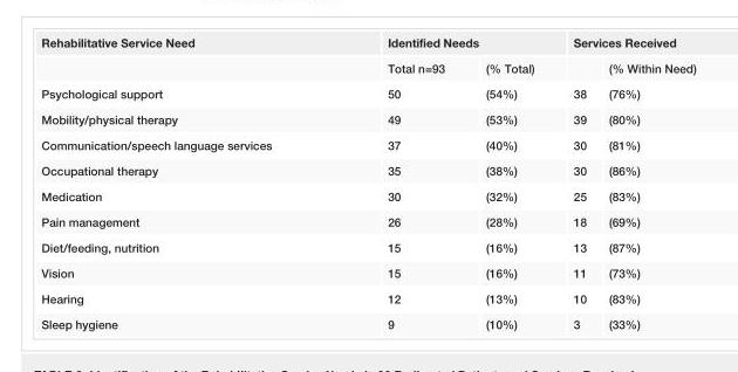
<table><tbody><tr><td rowspan="2">Rehabilitative Service Need</td><td colspan="2">Identified Needs</td><td colspan="2">Services Received</td></tr><tr><td>Total n=93</td><td>(% Total)</td><td></td><td>(% Within Need)</td></tr><tr><td>Psychological support</td><td>50</td><td>(54%)</td><td>38</td><td>(76%)</td></tr><tr><td>Mobility/physical therapy</td><td>49</td><td>(53%)</td><td>39</td><td>(80%)</td></tr><tr><td>Communication/speech language services</td><td>37</td><td>(40%)</td><td>30</td><td>(81%)</td></tr><tr><td>Occupational therapy</td><td>35</td><td>(38%)</td><td>30</td><td>(86%)</td></tr><tr><td>Medication</td><td>30</td><td>(32%)</td><td>25</td><td>(83%)</td></tr><tr><td>Pain management</td><td>26</td><td>(28%)</td><td>18</td><td>(69%)</td></tr><tr><td>Diet/feeding, nutrition</td><td>15</td><td>(16%)</td><td>13</td><td>(87%)</td></tr><tr><td>Vision</td><td>15</td><td>(16%)</td><td>11</td><td>(73%)</td></tr><tr><td>Hearing</td><td>12</td><td>(13%)</td><td>10</td><td>(83%)</td></tr><tr><td>Sleep hygiene</td><td>9</td><td>(10%)</td><td>3</td><td>(33%)</td></tr></tbody></table>